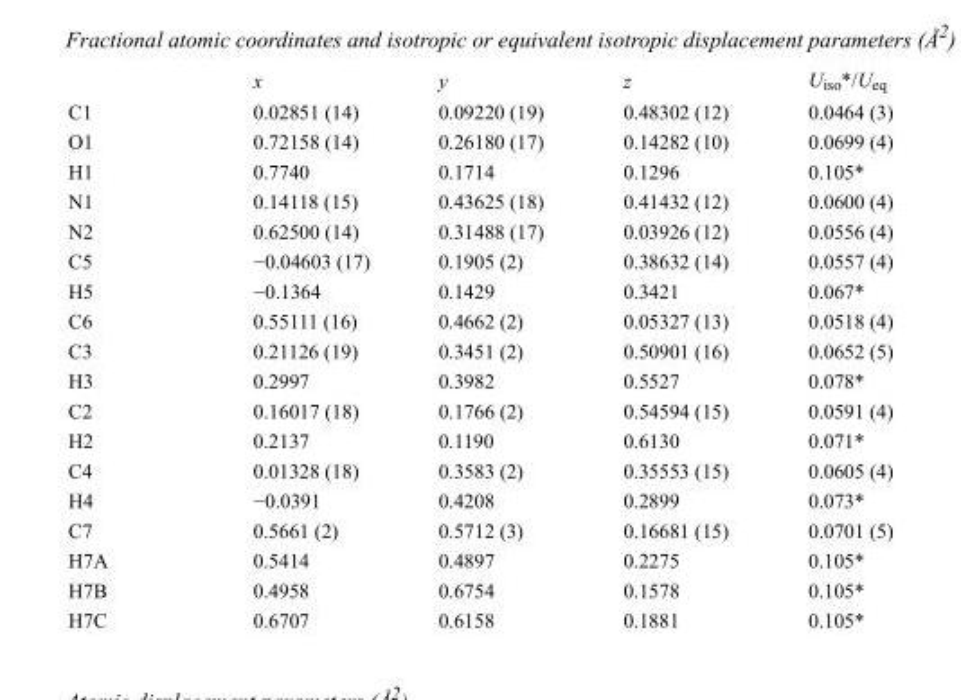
<table><thead><tr><td></td><td>x</td><td>y</td><td>z</td><td>U<sub>iso</sub>*/U<sub>eq</sub></td></tr></thead><tbody><tr><td>C1</td><td>0.02851 (14)</td><td>0.09220 (19)</td><td>0.48302 (12)</td><td>0.0464 (3)</td></tr><tr><td>O1</td><td>0.72158 (14)</td><td>0.26180 (17)</td><td>0.14282 (10)</td><td>0.0699 (4)</td></tr><tr><td>H1</td><td>0.7740</td><td>0.1714</td><td>0.1296</td><td>0.105*</td></tr><tr><td>N1</td><td>0.14118 (15)</td><td>0.43625 (18)</td><td>0.41432 (12)</td><td>0.0600 (4)</td></tr><tr><td>N2</td><td>0.62500 (14)</td><td>0.31488 (17)</td><td>0.03926 (12)</td><td>0.0556 (4)</td></tr><tr><td>C5</td><td>−0.04603 (17)</td><td>0.1905 (2)</td><td>0.38632 (14)</td><td>0.0557 (4)</td></tr><tr><td>H5</td><td>−0.1364</td><td>0.1429</td><td>0.3421</td><td>0.067*</td></tr><tr><td>C6</td><td>0.55111 (16)</td><td>0.4662 (2)</td><td>0.05327 (13)</td><td>0.0518 (4)</td></tr><tr><td>C3</td><td>0.21126 (19)</td><td>0.3451 (2)</td><td>0.50901 (16)</td><td>0.0652 (5)</td></tr><tr><td>H3</td><td>0.2997</td><td>0.3982</td><td>0.5527</td><td>0.078*</td></tr><tr><td>C2</td><td>0.16017 (18)</td><td>0.1766 (2)</td><td>0.54594 (15)</td><td>0.0591 (4)</td></tr><tr><td>H2</td><td>0.2137</td><td>0.1190</td><td>0.6130</td><td>0.071*</td></tr><tr><td>C4</td><td>0.01328 (18)</td><td>0.3583 (2)</td><td>0.35553 (15)</td><td>0.0605 (4)</td></tr><tr><td>H4</td><td>−0.0391</td><td>0.4208</td><td>0.2899</td><td>0.073*</td></tr><tr><td>C7</td><td>0.5661 (2)</td><td>0.5712 (3)</td><td>0.16681 (15)</td><td>0.0701 (5)</td></tr><tr><td>H7A</td><td>0.5414</td><td>0.4897</td><td>0.2275</td><td>0.105*</td></tr><tr><td>H7B</td><td>0.4958</td><td>0.6754</td><td>0.1578</td><td>0.105*</td></tr><tr><td>H7C</td><td>0.6707</td><td>0.6158</td><td>0.1881</td><td>0.105*</td></tr></tbody></table>